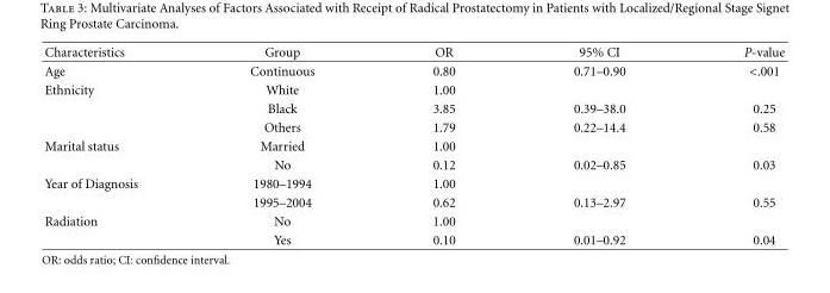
<table><thead><tr><td>Characteristics</td><td>Group</td><td>OR</td><td>95% CI</td><td>P-value</td></tr></thead><tbody><tr><td>Age</td><td>Continuous</td><td>0.80</td><td>0.71–0.90</td><td>&lt;.001</td></tr><tr><td rowspan="3">Ethnicity</td><td>White</td><td>1.00</td><td></td><td></td></tr><tr><td>Black</td><td>3.85</td><td>0.39–38.0</td><td>0.25</td></tr><tr><td>Others</td><td>1.79</td><td>0.22–14.4</td><td>0.58</td></tr><tr><td rowspan="2">Marital status</td><td>Married</td><td>1.00</td><td></td><td></td></tr><tr><td>No</td><td>0.12</td><td>0.02–0.85</td><td>0.03</td></tr><tr><td rowspan="2">Year of Diagnosis</td><td>1980–1994</td><td>1.00</td><td></td><td></td></tr><tr><td>1995–2004</td><td>0.62</td><td>0.13–2.97</td><td>0.55</td></tr><tr><td rowspan="2">Radiation</td><td>No</td><td>1.00</td><td></td><td></td></tr><tr><td>Yes</td><td>0.10</td><td>0.01–0.92</td><td>0.04</td></tr></tbody></table>